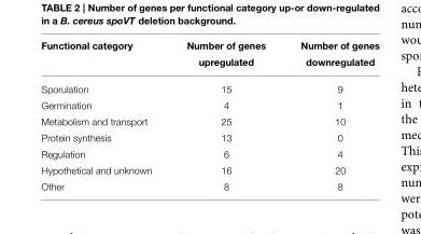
<table><thead><tr><td>Functional category</td><td>Number of genes upregulated</td><td>Number of genes downregulated</td></tr></thead><tbody><tr><td>Sporulation</td><td>15</td><td>9</td></tr><tr><td>Germination</td><td>4</td><td>1</td></tr><tr><td>Metabolism and transport</td><td>25</td><td>10</td></tr><tr><td>Protein synthesis</td><td>13</td><td>0</td></tr><tr><td>Regulation</td><td>6</td><td>4</td></tr><tr><td>Hypothetical and unknown</td><td>16</td><td>20</td></tr><tr><td>Other</td><td>8</td><td>8</td></tr></tbody></table>